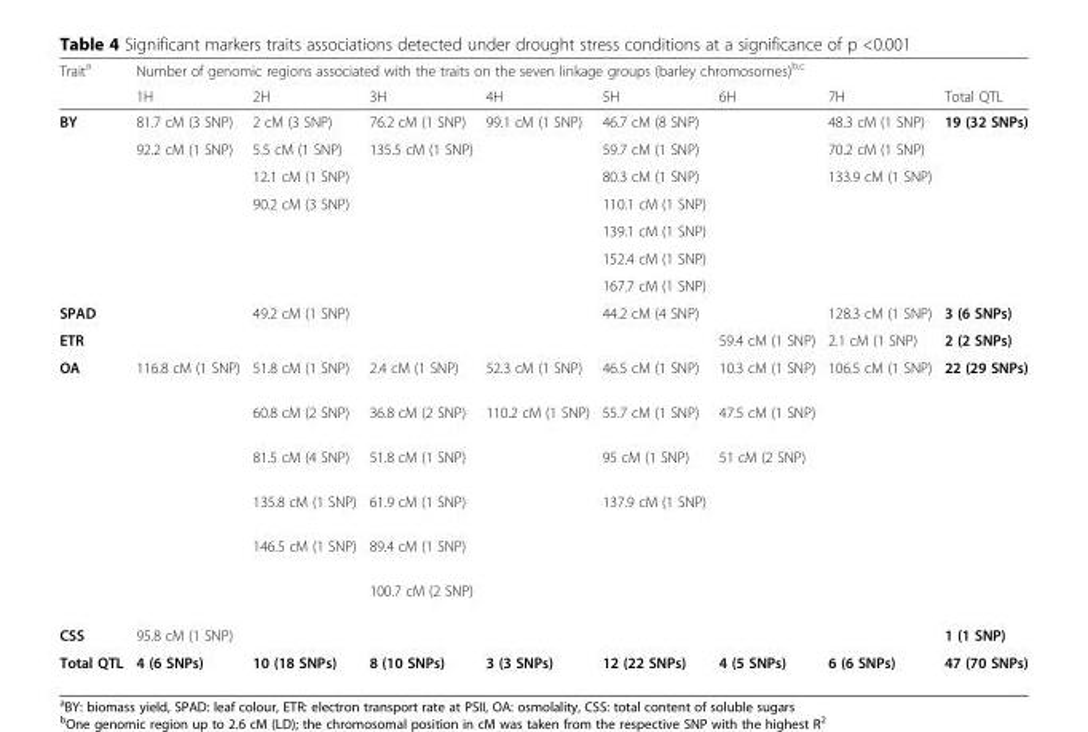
<table><thead><tr><td rowspan="2">Trait<sup>a</sup></td><td colspan="8">Number of genomic regions associated with the traits on the seven linkage groups (barley chromosomes)<sup>b,c</sup></td></tr><tr><td>1H</td><td>2H</td><td>3H</td><td>4H</td><td>5H</td><td>6H</td><td>7H</td><td>Total QTL</td></tr></thead><tbody><tr><td rowspan="7">BY</td><td>81.7 cM (3 SNP)</td><td>2 cM (3 SNP)</td><td>76.2 cM (1 SNP)</td><td>99.1 cM (1 SNP)</td><td>46.7 cM (8 SNP)</td><td></td><td>48.3 cM (1 SNP)</td><td>19 (32 SNPs)</td></tr><tr><td>92.2 cM (1 SNP)</td><td>5.5 cM (1 SNP)</td><td>135.5 cM (1 SNP)</td><td></td><td>59.7 cM (1 SNP)</td><td></td><td>70.2 cM (1 SNP)</td><td></td></tr><tr><td></td><td>12.1 cM (1 SNP)</td><td></td><td></td><td>80.3 cM (1 SNP)</td><td></td><td>133.9 cM (1 SNP)</td><td></td></tr><tr><td></td><td>90.2 cM (3 SNP)</td><td></td><td></td><td>110.1 cM (1 SNP)</td><td></td><td></td><td></td></tr><tr><td></td><td></td><td></td><td></td><td>139.1 cM (1 SNP)</td><td></td><td></td><td></td></tr><tr><td></td><td></td><td></td><td></td><td>152.4 cM (1 SNP)</td><td></td><td></td><td></td></tr><tr><td></td><td></td><td></td><td></td><td>167.7 cM (1 SNP)</td><td></td><td></td><td></td></tr><tr><td>SPAD</td><td></td><td>49.2 cM (1 SNP)</td><td></td><td></td><td>44.2 cM (4 SNP)</td><td></td><td>128.3 cM (1 SNP)</td><td>3 (6 SNPs)</td></tr><tr><td>ETR</td><td></td><td></td><td></td><td></td><td></td><td>59.4 cM (1 SNP)</td><td>2.1 cM (1 SNP)</td><td>2 (2 SNPs)</td></tr><tr><td rowspan="6">OA</td><td>116.8 cM (1 SNP)</td><td>51.8 cM (1 SNP)</td><td>2.4 cM (1 SNP)</td><td>52.3 cM (1 SNP)</td><td>46.5 cM (1 SNP)</td><td>10.3 cM (1 SNP)</td><td>106.5 cM (1 SNP)</td><td>22 (29 SNPs)</td></tr><tr><td></td><td>60.8 cM (2 SNP)</td><td>36.8 cM (2 SNP)</td><td>110.2 cM (1 SNP)</td><td>55.7 cM (1 SNP)</td><td>47.5 cM (1 SNP)</td><td></td><td></td></tr><tr><td></td><td>81.5 cM (4 SNP)</td><td>51.8 cM (1 SNP)</td><td></td><td>95 cM (1 SNP)</td><td>51 cM (2 SNP)</td><td></td><td></td></tr><tr><td></td><td>135.8 cM (1 SNP)</td><td>61.9 cM (1 SNP)</td><td></td><td>137.9 cM (1 SNP)</td><td></td><td></td><td></td></tr><tr><td></td><td>146.5 cM (1 SNP)</td><td>89.4 cM (1 SNP)</td><td></td><td></td><td></td><td></td><td></td></tr><tr><td></td><td></td><td>100.7 cM (2 SNP)</td><td></td><td></td><td></td><td></td><td></td></tr><tr><td>CSS</td><td>95.8 cM (1 SNP)</td><td></td><td></td><td></td><td></td><td></td><td></td><td>1 (1 SNP)</td></tr><tr><td>Total QTL</td><td>4 (6 SNPs)</td><td>10 (18 SNPs)</td><td>8 (10 SNPs)</td><td>3 (3 SNPs)</td><td>12 (22 SNPs)</td><td>4 (5 SNPs)</td><td>6 (6 SNPs)</td><td>47 (70 SNPs)</td></tr></tbody></table>